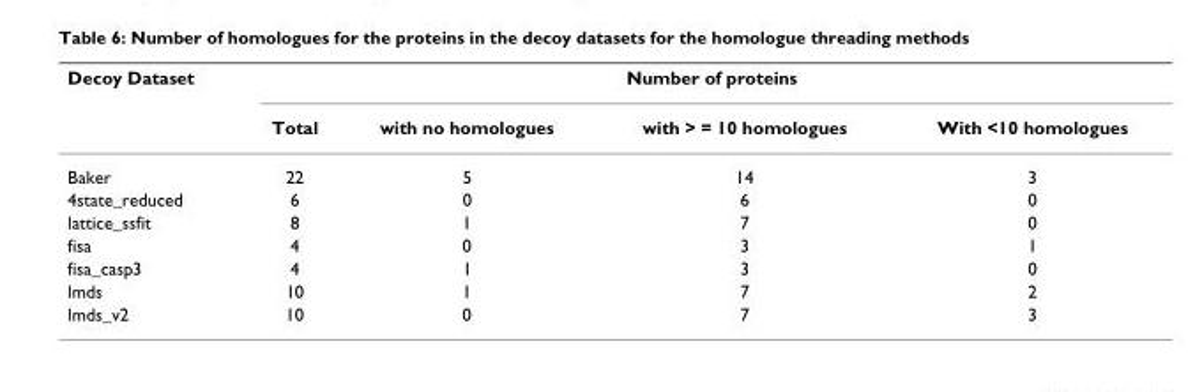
<table><thead><tr><td rowspan="2">Decoy Dataset</td><td colspan="4">Number of proteins</td></tr><tr><td>Total</td><td>with no homologues</td><td>with &gt; = 10 homologues</td><td>With &lt;10 homologues</td></tr></thead><tbody><tr><td>Baker</td><td>22</td><td>5</td><td>14</td><td>3</td></tr><tr><td>4state_reduced</td><td>6</td><td>0</td><td>6</td><td>0</td></tr><tr><td>lattice_ssfit</td><td>8</td><td>1</td><td>7</td><td>0</td></tr><tr><td>fisa</td><td>4</td><td>0</td><td>3</td><td>1</td></tr><tr><td>fisa_casp3</td><td>4</td><td>1</td><td>3</td><td>0</td></tr><tr><td>lmds</td><td>10</td><td>1</td><td>7</td><td>2</td></tr><tr><td>lmds_v2</td><td>10</td><td>0</td><td>7</td><td>3</td></tr></tbody></table>